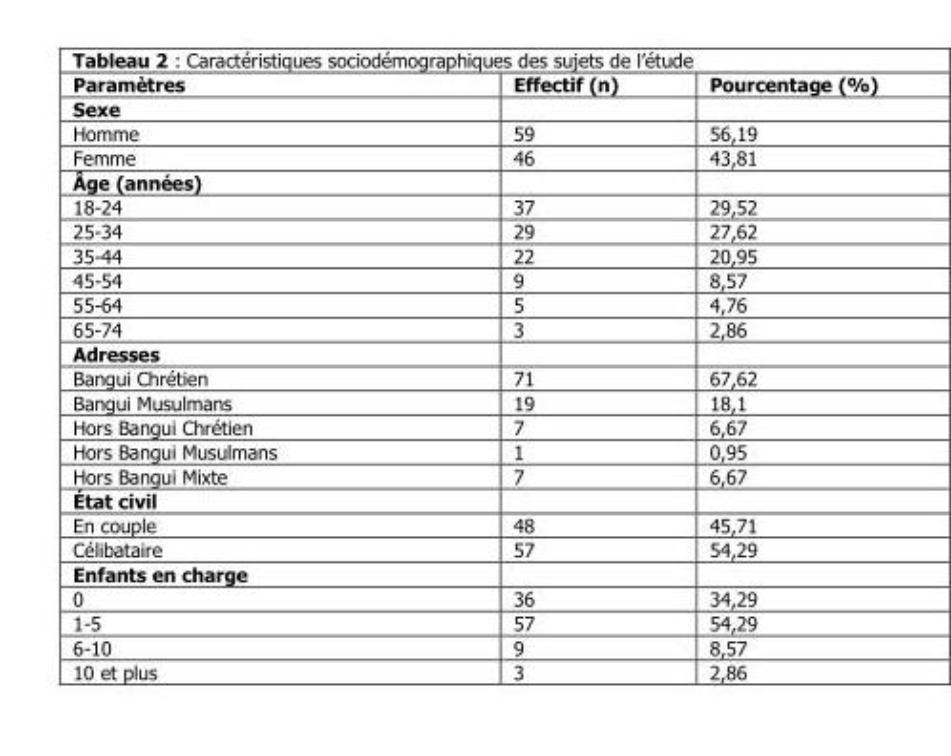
<table><thead><tr><td>Paramètres</td><td>Effectif (n)</td><td>Pourcentage (%)</td></tr></thead><tbody><tr><td colspan="3">Sexe</td></tr><tr><td>Homme</td><td>59</td><td>56,19</td></tr><tr><td>Femme</td><td>46</td><td>43,81</td></tr><tr><td colspan="3">Âge (années)</td></tr><tr><td>18-24</td><td>37</td><td>29,52</td></tr><tr><td>25-34</td><td>29</td><td>27,62</td></tr><tr><td>35-44</td><td>22</td><td>20,95</td></tr><tr><td>45-54</td><td>9</td><td>8,57</td></tr><tr><td>55-64</td><td>5</td><td>4,76</td></tr><tr><td>65-74</td><td>3</td><td>2,86</td></tr><tr><td colspan="3">Adresses</td></tr><tr><td>Bangui Chrétien</td><td>71</td><td>67,62</td></tr><tr><td>Bangui Musulmans</td><td>19</td><td>18,1</td></tr><tr><td>Hors Bangui Chrétien</td><td>7</td><td>6,67</td></tr><tr><td>Hors Bangui Musulmans</td><td>1</td><td>0,95</td></tr><tr><td>Hors Bangui Mixte</td><td>7</td><td>6,67</td></tr><tr><td colspan="3">État civil</td></tr><tr><td>En couple</td><td>48</td><td>45,71</td></tr><tr><td>Célibataire</td><td>57</td><td>54,29</td></tr><tr><td colspan="3">Enfants en charge</td></tr><tr><td>0</td><td>36</td><td>34,29</td></tr><tr><td>1-5</td><td>57</td><td>54,29</td></tr><tr><td>6-10</td><td>9</td><td>8,57</td></tr><tr><td>10 et plus</td><td>3</td><td>2,86</td></tr></tbody></table>